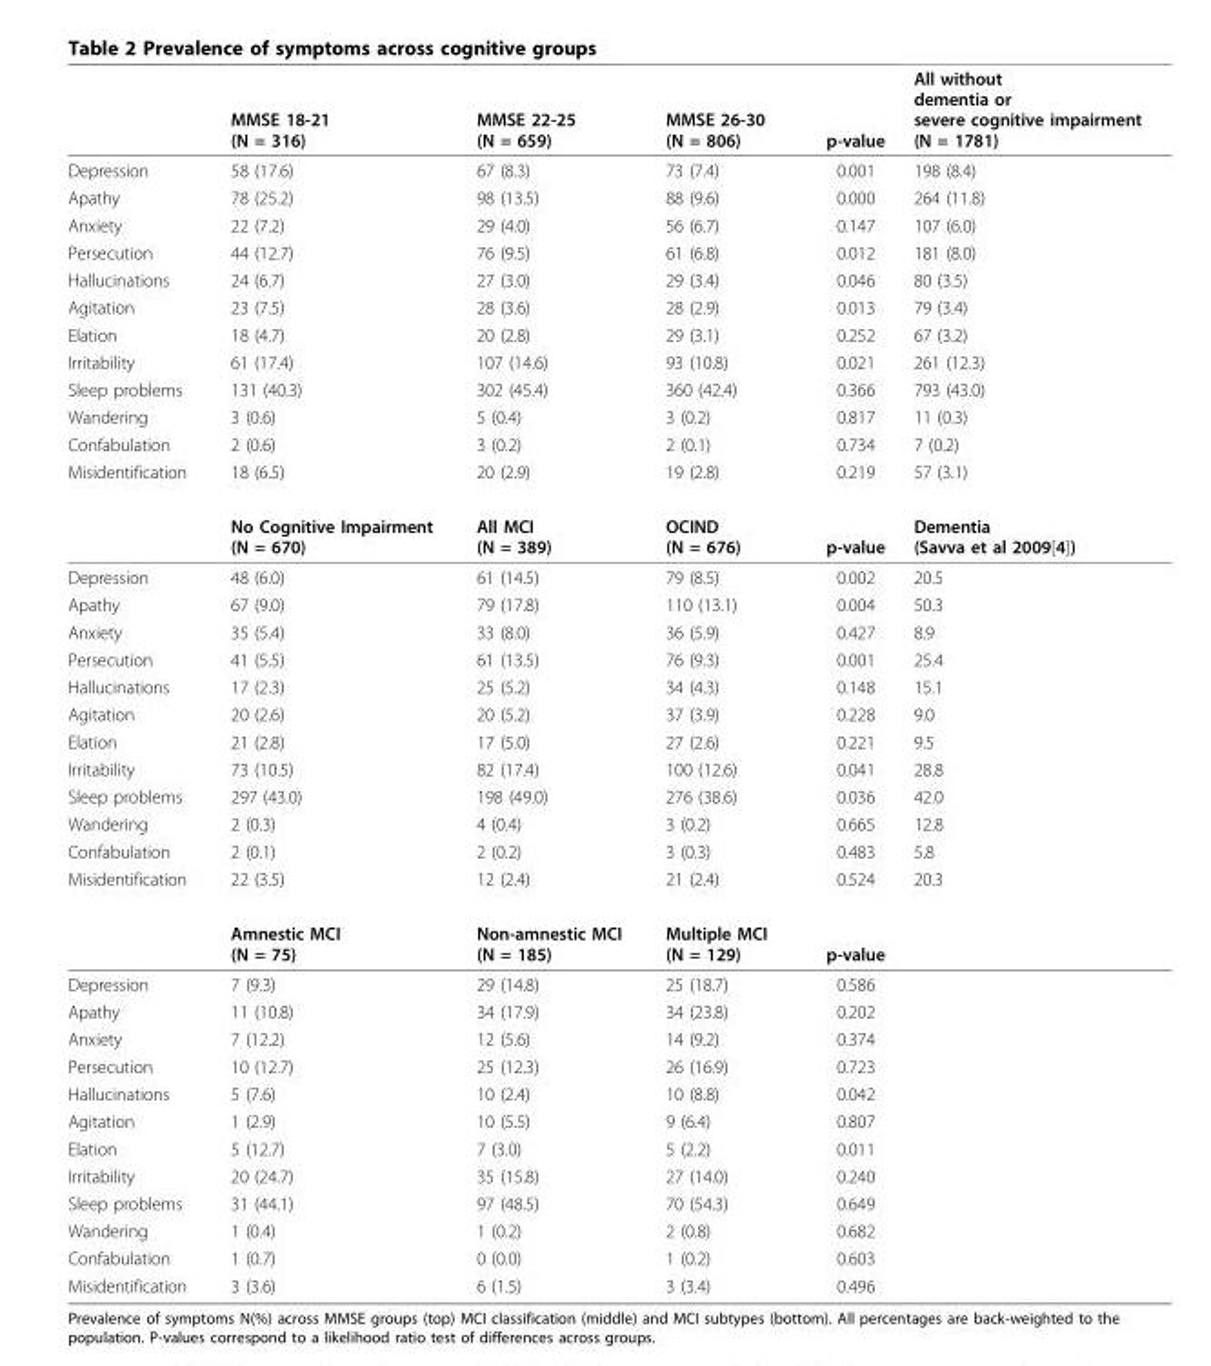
<table><thead><tr><td></td><td>MMSE 18-21 (N = 316)</td><td>MMSE 22-25 (N = 659)</td><td>MMSE 26-30 (N = 806)</td><td>p-value</td><td>All without dementia or severe cognitive impairment (N = 1781)</td></tr></thead><tbody><tr><td>Depression</td><td>58 (17.6)</td><td>67 (8.3)</td><td>73 (7.4)</td><td>0.001</td><td>198 (8.4)</td></tr><tr><td>Apathy</td><td>78 (25.2)</td><td>98 (13.5)</td><td>88 (9.6)</td><td>0.000</td><td>264 (11.8)</td></tr><tr><td>Anxiety</td><td>22 (7.2)</td><td>29 (4.0)</td><td>56 (6.7)</td><td>0.147</td><td>107 (6.0)</td></tr><tr><td>Persecution</td><td>44 (12.7)</td><td>76 (9.5)</td><td>61 (6.8)</td><td>0.012</td><td>181 (8.0)</td></tr><tr><td>Hallucinations</td><td>24 (6.7)</td><td>27 (3.0)</td><td>29 (3.4)</td><td>0.046</td><td>80 (3.5)</td></tr><tr><td>Agitation</td><td>23 (7.5)</td><td>28 (3.6)</td><td>28 (2.9)</td><td>0.013</td><td>79 (3.4)</td></tr><tr><td>Elation</td><td>18 (4.7)</td><td>20 (2.8)</td><td>29 (3.1)</td><td>0.252</td><td>67 (3.2)</td></tr><tr><td>Irritability</td><td>61 (17.4)</td><td>107 (14.6)</td><td>93 (10.8)</td><td>0.021</td><td>261 (12.3)</td></tr><tr><td>Sleep problems</td><td>131 (40.3)</td><td>302 (45.4)</td><td>360 (42.4)</td><td>0.366</td><td>793 (43.0)</td></tr><tr><td>Wandering</td><td>3 (0.6)</td><td>5 (0.4)</td><td>3 (0.2)</td><td>0.817</td><td>11 (0.3)</td></tr><tr><td>Confabulation</td><td>2 (0.6)</td><td>3 (0.2)</td><td>2 (0.1)</td><td>0.734</td><td>7 (0.2)</td></tr><tr><td rowspan="2">Misidentification</td><td>18 (6.5)</td><td>20 (2.9)</td><td>19 (2.8)</td><td>0.219</td><td>57 (3.1)</td></tr><tr><td>No Cognitive Impairment (N = 670)</td><td>All MCI (N = 389)</td><td>OCIND (N = 676)</td><td>p-value</td><td>Dementia (Savva et al 2009[4])</td></tr><tr><td>Depression</td><td>48 (6.0)</td><td>61 (14.5)</td><td>79 (8.5)</td><td>0.002</td><td>20.5</td></tr><tr><td>Apathy</td><td>67 (9.0)</td><td>79 (17.8)</td><td>110 (13.1)</td><td>0.004</td><td>50.3</td></tr><tr><td>Anxiety</td><td>35 (5.4)</td><td>33 (8.0)</td><td>36 (5.9)</td><td>0.427</td><td>8.9</td></tr><tr><td>Persecution</td><td>41 (5.5)</td><td>61 (13.5)</td><td>76 (9.3)</td><td>0.001</td><td>25.4</td></tr><tr><td>Hallucinations</td><td>17 (2.3)</td><td>25 (5.2)</td><td>34 (4.3)</td><td>0.148</td><td>15.1</td></tr><tr><td>Agitation</td><td>20 (2.6)</td><td>20 (5.2)</td><td>37 (3.9)</td><td>0.228</td><td>9.0</td></tr><tr><td>Elation</td><td>21 (2.8)</td><td>17 (5.0)</td><td>27 (2.6)</td><td>0.221</td><td>9.5</td></tr><tr><td>Irritability</td><td>73 (10.5)</td><td>82 (17.4)</td><td>100 (12.6)</td><td>0.041</td><td>28.8</td></tr><tr><td>Sleep problems</td><td>297 (43.0)</td><td>198 (49.0)</td><td>276 (38.6)</td><td>0.036</td><td>42.0</td></tr><tr><td>Wandering</td><td>2 (0.3)</td><td>4 (0.4)</td><td>3 (0.2)</td><td>0.665</td><td>12.8</td></tr><tr><td>Confabulation</td><td>2 (0.1)</td><td>2 (0.2)</td><td>3 (0.3)</td><td>0.483</td><td>5.8</td></tr><tr><td rowspan="2">Misidentification</td><td>22 (3.5)</td><td>12 (2.4)</td><td>21 (2.4)</td><td>0.524</td><td>20.3</td></tr><tr><td>Amnestic MCI (N = 75)</td><td>Non-amnestic MCI (N = 185)</td><td>Multiple MCI (N = 129)</td><td>p-value</td><td></td></tr><tr><td>Depression</td><td>7 (9.3)</td><td>29 (14.8)</td><td>25 (18.7)</td><td>0.586</td><td></td></tr><tr><td>Apathy</td><td>11 (10.8)</td><td>34 (17.9)</td><td>34 (23.8)</td><td>0.202</td><td></td></tr><tr><td>Anxiety</td><td>7 (12.2)</td><td>12 (5.6)</td><td>14 (9.2)</td><td>0.374</td><td></td></tr><tr><td>Persecution</td><td>10 (12.7)</td><td>25 (12.3)</td><td>26 (16.9)</td><td>0.723</td><td></td></tr><tr><td>Hallucinations</td><td>5 (7.6)</td><td>10 (2.4)</td><td>10 (8.8)</td><td>0.042</td><td></td></tr><tr><td>Agitation</td><td>1 (2.9)</td><td>10 (5.5)</td><td>9 (6.4)</td><td>0.807</td><td></td></tr><tr><td>Elation</td><td>5 (12.7)</td><td>7 (3.0)</td><td>5 (2.2)</td><td>0.011</td><td></td></tr><tr><td>Irritability</td><td>20 (24.7)</td><td>35 (15.8)</td><td>27 (14.0)</td><td>0.240</td><td></td></tr><tr><td>Sleep problems</td><td>31 (44.1)</td><td>97 (48.5)</td><td>70 (54.3)</td><td>0.649</td><td></td></tr><tr><td>Wandering</td><td>1 (0.4)</td><td>1 (0.2)</td><td>2 (0.8)</td><td>0.682</td><td></td></tr><tr><td>Confabulation</td><td>1 (0.7)</td><td>0 (0.0)</td><td>1 (0.2)</td><td>0.603</td><td></td></tr><tr><td>Misidentification</td><td>3 (3.6)</td><td>6 (1.5)</td><td>3 (3.4)</td><td>0.496</td><td></td></tr></tbody></table>